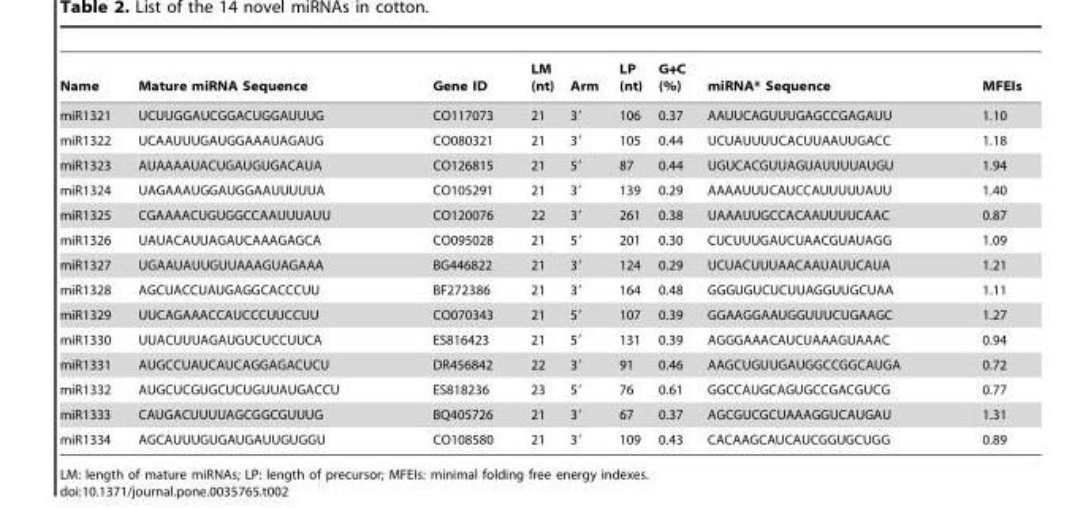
<table><thead><tr><td>Name</td><td>Mature miRNA Sequence</td><td>Gene ID</td><td>LM (nt)</td><td>Arm</td><td>LP (nt)</td><td>G+C (%)</td><td>miRNA* Sequence</td><td>MFEIs</td></tr></thead><tbody><tr><td>miR1321</td><td>UCUUGGAUCGGACUGGAUUUG</td><td>CO117073</td><td>21</td><td>3′</td><td>106</td><td>0.37</td><td>AAUUCAGUUUGAGCCGAGAUU</td><td>1.10</td></tr><tr><td>miR1322</td><td>UCAAUUUGAUGGAAAUAGAUG</td><td>CO080321</td><td>21</td><td>3′</td><td>105</td><td>0.44</td><td>UCUAUUUUCACUUAAUUGACC</td><td>1.18</td></tr><tr><td>miR1323</td><td>AUAAAAUACUGAUGUGACAUA</td><td>CO126815</td><td>21</td><td>5′</td><td>87</td><td>0.44</td><td>UGUCACGUUAGUAUUUUAUGU</td><td>1.94</td></tr><tr><td>miR1324</td><td>UAGAAAUGGAUGGAAUUUUUA</td><td>CO105291</td><td>21</td><td>3′</td><td>139</td><td>0.29</td><td>AAAAUUUCAUCCAUUUUUAUU</td><td>1.40</td></tr><tr><td>miR1325</td><td>CGAAAACUGUGGCCAAUUUAUU</td><td>CO120076</td><td>22</td><td>3′</td><td>261</td><td>0.38</td><td>UAAAUUGCCACAAUUUUCAAC</td><td>0.87</td></tr><tr><td>miR1326</td><td>UAUACAUUAGAUCAAAGAGCA</td><td>CO095028</td><td>21</td><td>5′</td><td>201</td><td>0.30</td><td>CUCUUUGAUCUAACGUAUAGG</td><td>1.09</td></tr><tr><td>miR1327</td><td>UGAAUAUUGUUAAAGUAGAAA</td><td>BG446822</td><td>21</td><td>3′</td><td>124</td><td>0.29</td><td>UCUACUUUAACAAUAUUCAUA</td><td>1.21</td></tr><tr><td>miR1328</td><td>AGCUACCUAUGAGGCACCCUU</td><td>BF272386</td><td>21</td><td>3′</td><td>164</td><td>0.48</td><td>GGGUGUCUCUUAGGUUGCUAA</td><td>1.11</td></tr><tr><td>miR1329</td><td>UUCAGAAACCAUCCCUUCCUU</td><td>CO070343</td><td>21</td><td>5′</td><td>107</td><td>0.39</td><td>GGAAGGAAUGGUUUCUGAAGC</td><td>1.27</td></tr><tr><td>miR1330</td><td>UUACUUUAGAUGUCUCCUUCA</td><td>ES816423</td><td>21</td><td>5′</td><td>131</td><td>0.39</td><td>AGGGAAACAUCUAAAGUAAAC</td><td>0.94</td></tr><tr><td>miR1331</td><td>AUGCCUAUCAUCAGGAGACUCU</td><td>DR456842</td><td>22</td><td>3′</td><td>91</td><td>0.46</td><td>AAGCUGUUGAUGGCCGGCAUGA</td><td>0.72</td></tr><tr><td>miR1332</td><td>AUGCUCGUGCUCUGUUAUGACCU</td><td>ES818236</td><td>23</td><td>5′</td><td>76</td><td>0.61</td><td>GGCCAUGCAGUGCCGACGUCG</td><td>0.77</td></tr><tr><td>miR1333</td><td>CAUGACUUUUAGCGGCGUUUG</td><td>BQ405726</td><td>21</td><td>3′</td><td>67</td><td>0.37</td><td>AGCGUCGCUAAAGGUCAUGAU</td><td>1.31</td></tr><tr><td>miR1334</td><td>AGCAUUUGUGAUGAUUGUGGU</td><td>CO108580</td><td>21</td><td>3′</td><td>109</td><td>0.43</td><td>CACAAGCAUCAUCGGUGCUGG</td><td>0.89</td></tr></tbody></table>